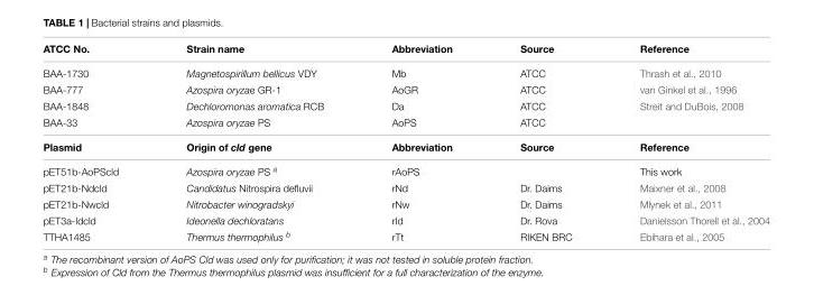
<table><thead><tr><td>ATCC No.</td><td>Strain name</td><td>Abbreviation</td><td>Source</td><td>Reference</td></tr></thead><tbody><tr><td>BAA-1730</td><td>Magnetospirillum bellicus VDY</td><td>Mb</td><td>ATCC</td><td>Thrash et al., 2010</td></tr><tr><td>BAA-777</td><td>Azospira oryzae GR-1</td><td>AoGR</td><td>ATCC</td><td>van Ginkel et al., 1996</td></tr><tr><td>BAA-1848</td><td>Dechloromonas aromatica RCB</td><td>Da</td><td>ATCC</td><td>Streit and DuBois, 2008</td></tr><tr><td>BAA-33</td><td>Azospira oryzae PS</td><td>AoPS</td><td>ATCC</td><td></td></tr><tr><td>Plasmid</td><td>Origin of cld gene</td><td>Abbreviation</td><td>Source</td><td>Reference</td></tr><tr><td>pET51b-AoPScld</td><td>Azospira oryzae PS <sup>a</sup></td><td>rAoPS</td><td></td><td>This work</td></tr><tr><td>pET21b-Ndcld</td><td>Candidatus Nitrospira defluvii</td><td>rNd</td><td>Dr. Daims</td><td>Maixner et al., 2008</td></tr><tr><td>pET21b-Nwcld</td><td>Nitrobacter winogradskyi</td><td>rNw</td><td>Dr. Daims</td><td>Mlynek et al., 2011</td></tr><tr><td>pET3a-Idcld</td><td>Ideonella dechloratans</td><td>rId</td><td>Dr. Rova</td><td>Danielsson Thorell et al., 2004</td></tr><tr><td>TTHA1485</td><td>Thermus thermophilus <sup>b</sup></td><td>rTt</td><td>RIKEN BRC</td><td>Ebihara et al., 2005</td></tr></tbody></table>